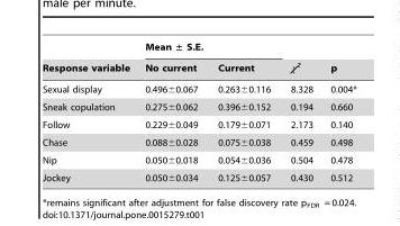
<table><thead><tr><td rowspan="2">Response variable</td><td colspan="2">Mean ± S.E.</td><td rowspan="2">χ<sup>2</sup></td><td rowspan="2">p</td></tr><tr><td>No current</td><td>Current</td></tr></thead><tbody><tr><td>Sexual display</td><td>0.496±0.067</td><td>0.263±0.116</td><td>8.328</td><td>0.004*</td></tr><tr><td>Sneak copulation</td><td>0.275±0.062</td><td>0.396±0.152</td><td>0.194</td><td>0.660</td></tr><tr><td>Follow</td><td>0.229±0.049</td><td>0.179±0.071</td><td>2.173</td><td>0.140</td></tr><tr><td>Chase</td><td>0.088±0.028</td><td>0.075±0.038</td><td>0.459</td><td>0.498</td></tr><tr><td>Nip</td><td>0.050±0.018</td><td>0.054±0.036</td><td>0.504</td><td>0.478</td></tr><tr><td>Jockey</td><td>0.050±0.034</td><td>0.125±0.057</td><td>0.430</td><td>0.512</td></tr></tbody></table>